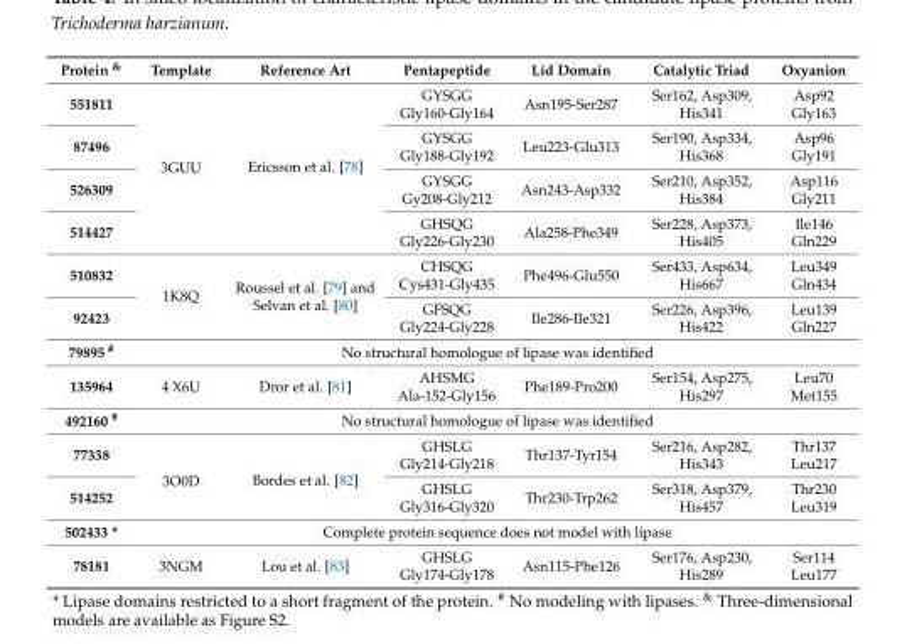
<table><thead><tr><td>Protein <sup>&amp;</sup></td><td>Template</td><td>Reference Art</td><td>Pentapeptide</td><td>Lid Domain</td><td>Catalytic Triad</td><td>Oxyanion</td></tr></thead><tbody><tr><td>551811</td><td rowspan="4">3GUU</td><td rowspan="4">Ericsson et al. [78]</td><td>GYSGG Gly160-Gly164</td><td>Asn195-Ser287</td><td>Ser162, Asp309, His341</td><td>Asp92 Gly163</td></tr><tr><td>87496</td><td>GYSGG Gly188-Gly192</td><td>Leu223-Glu313</td><td>Ser190, Asp334, His368</td><td>Asp96 Gly191</td></tr><tr><td>526309</td><td>GYSGG Gy208-Gly212</td><td>Asn243-Asp332</td><td>Ser210, Asp352, His384</td><td>Asp116 Gly211</td></tr><tr><td>514427</td><td>GHSQG Gly226-Gly230</td><td>Ala258-Phe349</td><td>Ser228, Asp373, His405</td><td>Ile146 Gln229</td></tr><tr><td>510832</td><td rowspan="2">1K8Q</td><td rowspan="2">Roussel et al. [79] and Selvan et al. [80]</td><td>CHSQG Cys431-Gly435</td><td>Phe496-Glu550</td><td>Ser433, Asp634, His667</td><td>Leu349 Gln434</td></tr><tr><td>92423</td><td>GFSQG Gly224-Gly228</td><td>Ile286-Ile321</td><td>Ser226, Asp396, His422</td><td>Leu139 Gln227</td></tr><tr><td>79895 <sup>#</sup></td><td colspan="6">No structural homologue of lipase was identified</td></tr><tr><td>135964</td><td>4 X6U</td><td>Dror et al. [81]</td><td>AHSMG Ala-152-Gly156</td><td>Phe189-Pro200</td><td>Ser154, Asp275, His297</td><td>Leu70 Met155</td></tr><tr><td>492160 <sup>#</sup></td><td colspan="6">No structural homologue of lipase was identified</td></tr><tr><td>77338</td><td rowspan="2">3O0D</td><td rowspan="2">Bordes et al. [82]</td><td>GHSLG Gly214-Gly218</td><td>Thr137-Tyr154</td><td>Ser216, Asp282, His343</td><td>Thr137 Leu217</td></tr><tr><td>514252</td><td>GHSLG Gly316-Gly320</td><td>Thr230-Trp262</td><td>Ser318, Asp379, His457</td><td>Thr230 Leu319</td></tr><tr><td>502433 *</td><td colspan="6">Complete protein sequence does not model with lipase</td></tr><tr><td>78181</td><td>3NGM</td><td>Lou et al. [83]</td><td>GHSLG Gly174-Gly178</td><td>Asn115-Phe126</td><td>Ser176, Asp230, His289</td><td>Ser114 Leu177</td></tr></tbody></table>